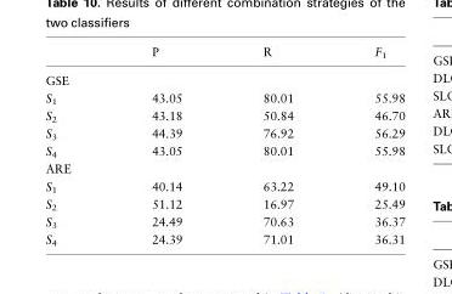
<table><thead><tr><td></td><td>P</td><td>R</td><td>F<sub>1</sub></td></tr></thead><tbody><tr><td colspan="4">GSE</td></tr><tr><td>S<sub>1</sub></td><td>43.05</td><td>80.01</td><td>55.98</td></tr><tr><td>S<sub>2</sub></td><td>43.18</td><td>50.84</td><td>46.70</td></tr><tr><td>S<sub>3</sub></td><td>44.39</td><td>76.92</td><td>56.29</td></tr><tr><td>S<sub>4</sub></td><td>43.05</td><td>80.01</td><td>55.98</td></tr><tr><td colspan="4">ARE</td></tr><tr><td>S<sub>1</sub></td><td>40.14</td><td>63.22</td><td>49.10</td></tr><tr><td>S<sub>2</sub></td><td>51.12</td><td>16.97</td><td>25.49</td></tr><tr><td>S<sub>3</sub></td><td>24.49</td><td>70.63</td><td>36.37</td></tr><tr><td>S<sub>4</sub></td><td>24.39</td><td>71.01</td><td>36.31</td></tr></tbody></table>